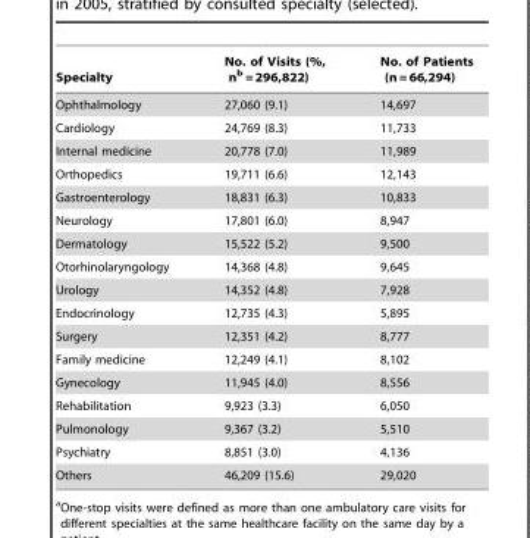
<table><thead><tr><td>Specialty</td><td>No. of Visits (%, n<sup>b</sup> = 296,822)</td><td>No. of Patients (n = 66,294)</td></tr></thead><tbody><tr><td>Ophthalmology</td><td>27,060 (9.1)</td><td>14,697</td></tr><tr><td>Cardiology</td><td>24,769 (8.3)</td><td>11,733</td></tr><tr><td>Internal medicine</td><td>20,778 (7.0)</td><td>11,989</td></tr><tr><td>Orthopedics</td><td>19,711 (6.6)</td><td>12,143</td></tr><tr><td>Gastroenterology</td><td>18,831 (6.3)</td><td>10,833</td></tr><tr><td>Neurology</td><td>17,801 (6.0)</td><td>8,947</td></tr><tr><td>Dermatology</td><td>15,522 (5.2)</td><td>9,500</td></tr><tr><td>Otorhinolaryngology</td><td>14,368 (4.8)</td><td>9,645</td></tr><tr><td>Urology</td><td>14,352 (4.8)</td><td>7,928</td></tr><tr><td>Endocrinology</td><td>12,735 (4.3)</td><td>5,895</td></tr><tr><td>Surgery</td><td>12,351 (4.2)</td><td>8,777</td></tr><tr><td>Family medicine</td><td>12,249 (4.1)</td><td>8,102</td></tr><tr><td>Gynecology</td><td>11,945 (4.0)</td><td>8,556</td></tr><tr><td>Rehabilitation</td><td>9,923 (3.3)</td><td>6,050</td></tr><tr><td>Pulmonology</td><td>9,367 (3.2)</td><td>5,510</td></tr><tr><td>Psychiatry</td><td>8,851 (3.0)</td><td>4,136</td></tr><tr><td>Others</td><td>46,209 (15.6)</td><td>29,020</td></tr></tbody></table>